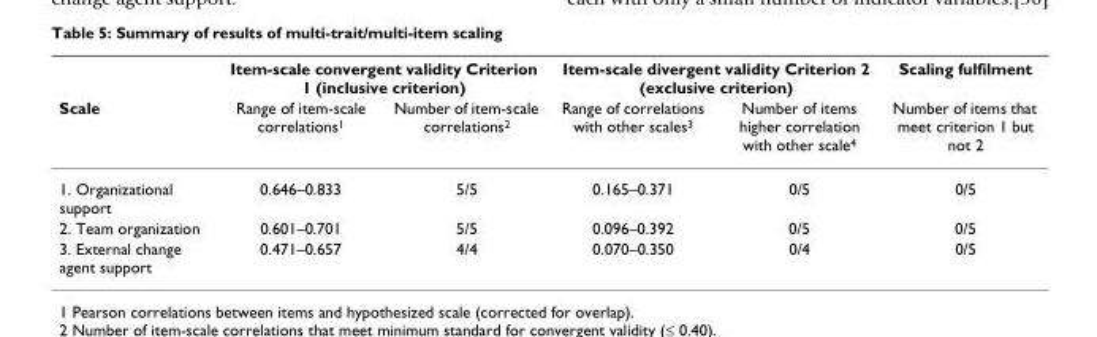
<table><thead><tr><td rowspan="2">Scale</td><td colspan="2">Item-scale convergent validity Criterion 1 (inclusive criterion)</td><td colspan="2">Item-scale divergent validity Criterion 2 (exclusive criterion)</td><td rowspan="2">Scaling fulfilment Number of items that meet criterion 1 but not 2</td></tr><tr><td>Range of item-scale correlations<sup>1</sup></td><td>Number of item-scale correlations<sup>2</sup></td><td>Range of correlations with other scales<sup>3</sup></td><td>Number of items higher correlation with other scale<sup>4</sup></td></tr></thead><tbody><tr><td>1. Organizational support</td><td>0.646–0.833</td><td>5/5</td><td>0.165–0.371</td><td>0/5</td><td>0/5</td></tr><tr><td>2. Team organization</td><td>0.601–0.701</td><td>5/5</td><td>0.096–0.392</td><td>0/5</td><td>0/5</td></tr><tr><td>3. External change agent support</td><td>0.471–0.657</td><td>4/4</td><td>0.070–0.350</td><td>0/4</td><td>0/5</td></tr></tbody></table>